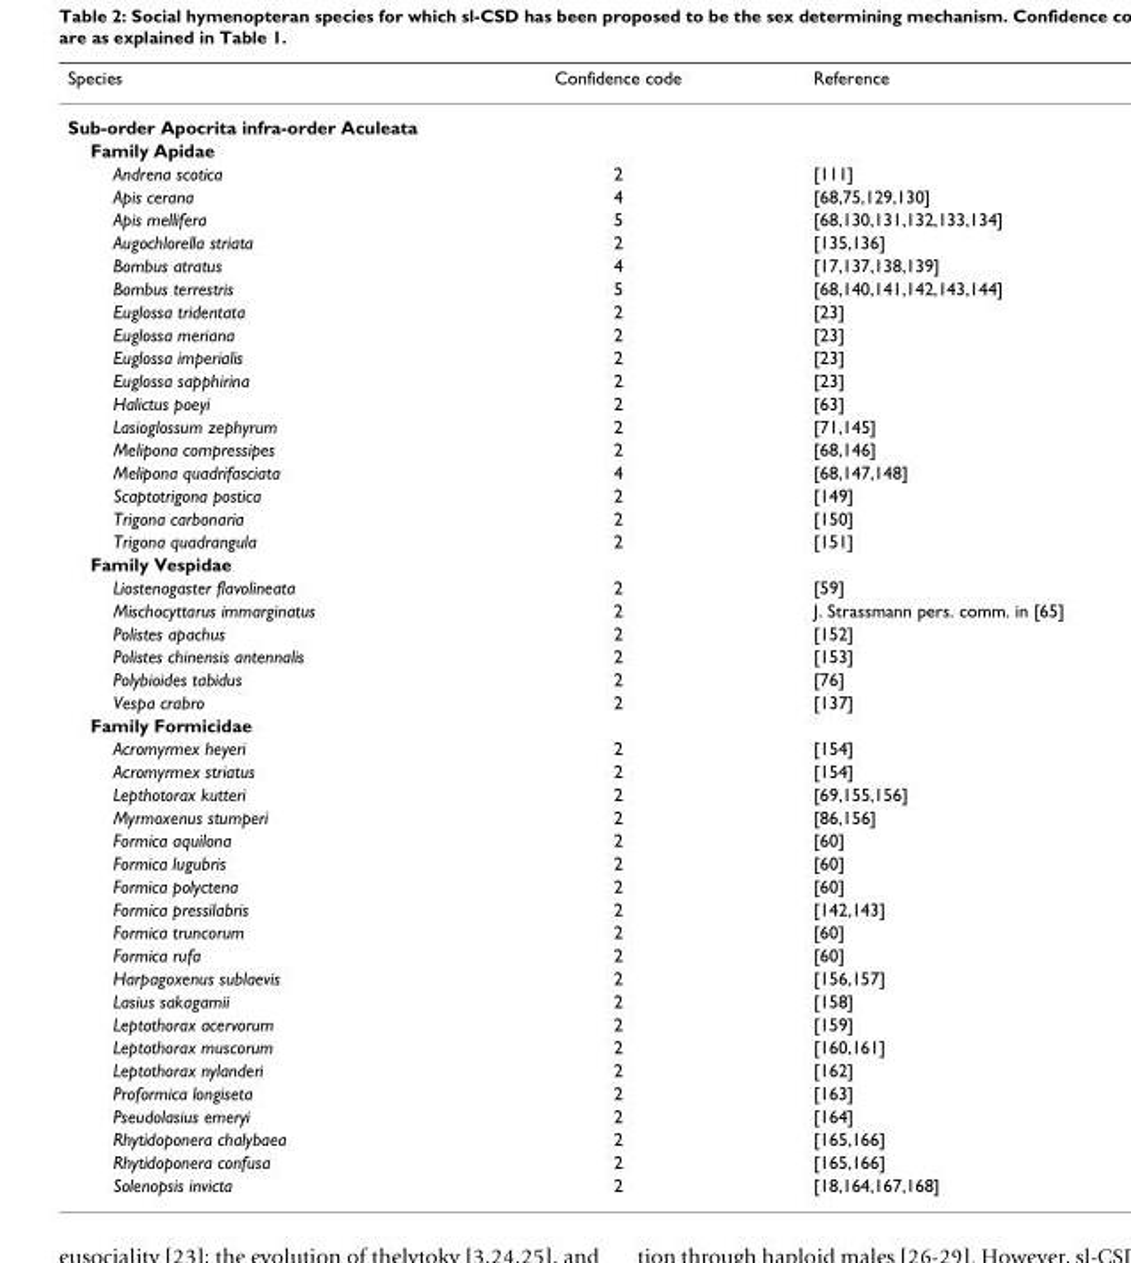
<table><thead><tr><td>Species</td><td>Confidence code</td><td>Reference</td></tr></thead><tbody><tr><td colspan="3">Sub-order Apocrita infra-order Aculeata</td></tr><tr><td colspan="3">Family Apidae</td></tr><tr><td>Andrena scotica</td><td>2</td><td>[111]</td></tr><tr><td>Apis cerana</td><td>4</td><td>[68,75,129,130]</td></tr><tr><td>Apis mellifera</td><td>5</td><td>[68,130,131,132,133,134]</td></tr><tr><td>Augochlorella striata</td><td>2</td><td>[135,136]</td></tr><tr><td>Bombus atratus</td><td>4</td><td>[17,137,138,139]</td></tr><tr><td>Bombus terrestris</td><td>5</td><td>[68,140,141,142,143,144]</td></tr><tr><td>Euglossa tridentata</td><td>2</td><td>[23]</td></tr><tr><td>Euglossa meriana</td><td>2</td><td>[23]</td></tr><tr><td>Euglossa imperialis</td><td>2</td><td>[23]</td></tr><tr><td>Euglossa sapphirina</td><td>2</td><td>[23]</td></tr><tr><td>Halictus poeyi</td><td>2</td><td>[63]</td></tr><tr><td>Lasioglossum zephyrum</td><td>2</td><td>[71,145]</td></tr><tr><td>Melipona compressipes</td><td>2</td><td>[68,146]</td></tr><tr><td>Melipona quadrifasciata</td><td>4</td><td>[68,147,148]</td></tr><tr><td>Scaptotrigona postica</td><td>2</td><td>[149]</td></tr><tr><td>Trigona carbonaria</td><td>2</td><td>[150]</td></tr><tr><td>Trigona quadrangula</td><td>2</td><td>[151]</td></tr><tr><td colspan="3">Family Vespidae</td></tr><tr><td>Liostenogaster flavolineata</td><td>2</td><td>[59]</td></tr><tr><td>Mischocyttarus immarginatus</td><td>2</td><td>J. Strassmann pers. comm. in [65]</td></tr><tr><td>Polistes apachus</td><td>2</td><td>[152]</td></tr><tr><td>Polistes chinensis antennalis</td><td>2</td><td>[153]</td></tr><tr><td>Polybioides tabidus</td><td>2</td><td>[76]</td></tr><tr><td>Vespa crabro</td><td>2</td><td>[137]</td></tr><tr><td colspan="3">Family Formicidae</td></tr><tr><td>Acromyrmex heyeri</td><td>2</td><td>[154]</td></tr><tr><td>Acromyrmex striatus</td><td>2</td><td>[154]</td></tr><tr><td>Lepthotorax kutteri</td><td>2</td><td>[69,155,156]</td></tr><tr><td>Myrmoxenus stumperi</td><td>2</td><td>[86,156]</td></tr><tr><td>Formica aquilona</td><td>2</td><td>[60]</td></tr><tr><td>Formica lugubris</td><td>2</td><td>[60]</td></tr><tr><td>Formica polyctena</td><td>2</td><td>[60]</td></tr><tr><td>Formica pressilabris</td><td>2</td><td>[142,143]</td></tr><tr><td>Formica truncorum</td><td>2</td><td>[60]</td></tr><tr><td>Formica rufa</td><td>2</td><td>[60]</td></tr><tr><td>Harpagoxenus sublaevis</td><td>2</td><td>[156,157]</td></tr><tr><td>Lasius sakagamii</td><td>2</td><td>[158]</td></tr><tr><td>Leptothorax acervorum</td><td>2</td><td>[159]</td></tr><tr><td>Leptothorax muscorum</td><td>2</td><td>[160,161]</td></tr><tr><td>Leptothorax nylanderi</td><td>2</td><td>[162]</td></tr><tr><td>Proformica longiseta</td><td>2</td><td>[163]</td></tr><tr><td>Pseudolasius emeryi</td><td>2</td><td>[164]</td></tr><tr><td>Rhytidoponera chalybaea</td><td>2</td><td>[165,166]</td></tr><tr><td>Rhytidoponera confusa</td><td>2</td><td>[165,166]</td></tr><tr><td>Solenopsis invicta</td><td>2</td><td>[18,164,167,168]</td></tr></tbody></table>